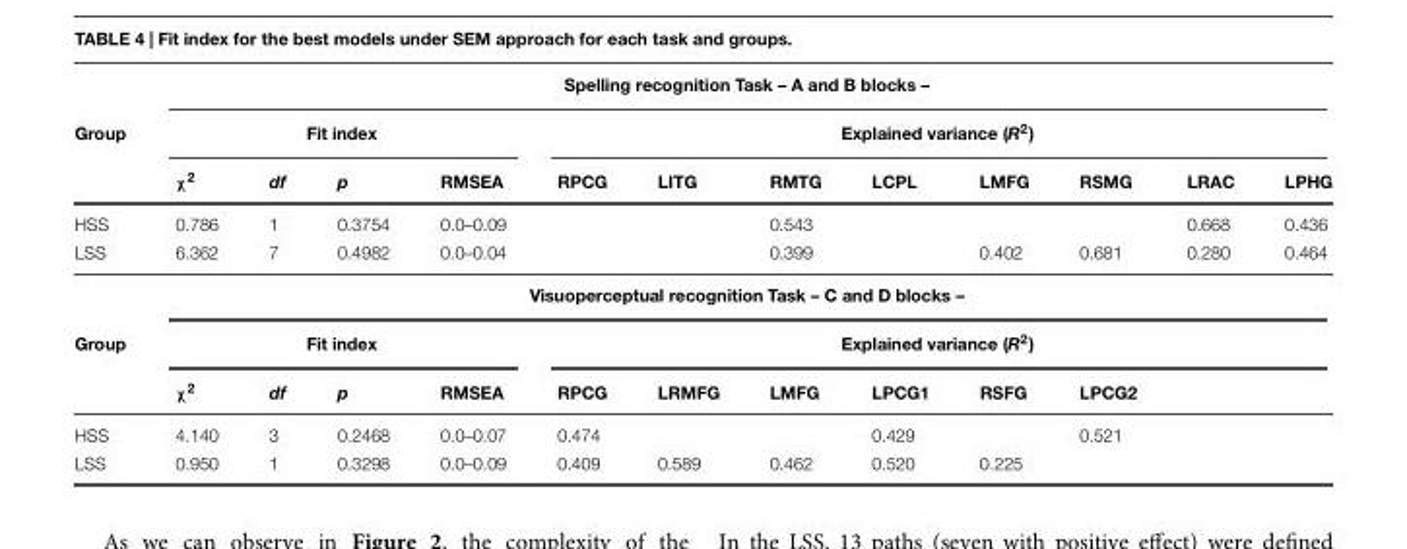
<table><thead><tr><td rowspan="3">Group</td><td colspan="12">Spelling recognition Task – A and B blocks –</td></tr><tr><td colspan="4">Fit index</td><td colspan="8">Explained variance (R<sup>2</sup>)</td></tr><tr><td>χ<sup>2</sup></td><td>df</td><td>p</td><td>RMSEA</td><td>RPCG</td><td>LITG</td><td>RMTG</td><td>LCPL</td><td>LMFG</td><td>RSMG</td><td>LRAC</td><td>LPHG</td></tr></thead><tbody><tr><td>HSS</td><td>0.786</td><td>1</td><td>0.3754</td><td>0.0–0.09</td><td></td><td></td><td>0.543</td><td></td><td></td><td></td><td>0.668</td><td>0.436</td></tr><tr><td rowspan="2">LSS</td><td>6.362</td><td>7</td><td>0.4982</td><td>0.0–0.04</td><td></td><td></td><td>0.399</td><td></td><td>0.402</td><td>0.681</td><td>0.280</td><td>0.464</td></tr><tr><td colspan="12">Visuoperceptual recognition Task – C and D blocks –</td></tr><tr><td rowspan="2">Group</td><td colspan="4">Fit index</td><td colspan="8">Explained variance (R2)</td></tr><tr><td>χ2</td><td>df</td><td>p</td><td>RMSEA</td><td>RPCG</td><td>LRMFG</td><td>LMFG</td><td>LPCG1</td><td>RSFG</td><td>LPCG2</td><td></td><td></td></tr><tr><td>HSS</td><td>4.140</td><td>3</td><td>0.2468</td><td>0.0–0.07</td><td>0.474</td><td></td><td></td><td>0.429</td><td></td><td>0.521</td><td></td><td></td></tr><tr><td>LSS</td><td>0.950</td><td>1</td><td>0.3298</td><td>0.0–0.09</td><td>0.409</td><td>0.589</td><td>0.462</td><td>0.520</td><td>0.225</td><td></td><td></td><td></td></tr></tbody></table>